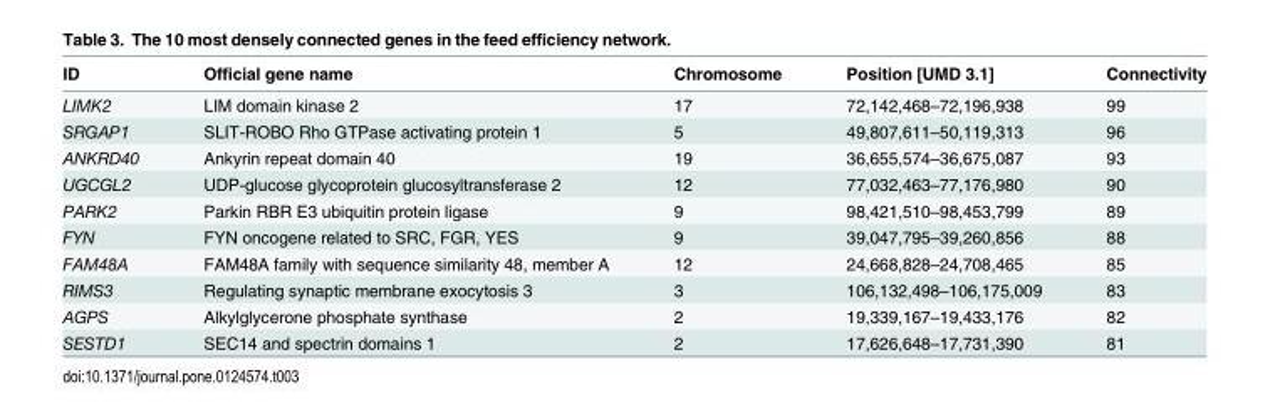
<table><thead><tr><td>ID</td><td>Official gene name</td><td>Chromosome</td><td>Position [UMD 3.1]</td><td>Connectivity</td></tr></thead><tbody><tr><td>LIMK2</td><td>LIM domain kinase 2</td><td>17</td><td>72,142,468–72,196,938</td><td>99</td></tr><tr><td>SRGAP1</td><td>SLIT-ROBO Rho GTPase activating protein 1</td><td>5</td><td>49,807,611–50,119,313</td><td>96</td></tr><tr><td>ANKRD40</td><td>Ankyrin repeat domain 40</td><td>19</td><td>36,655,574–36,675,087</td><td>93</td></tr><tr><td>UGCGL2</td><td>UDP-glucose glycoprotein glucosyltransferase 2</td><td>12</td><td>77,032,463–77,176,980</td><td>90</td></tr><tr><td>PARK2</td><td>Parkin RBR E3 ubiquitin protein ligase</td><td>9</td><td>98,421,510–98,453,799</td><td>89</td></tr><tr><td>FYN</td><td>FYN oncogene related to SRC, FGR, YES</td><td>9</td><td>39,047,795–39,260,856</td><td>88</td></tr><tr><td>FAM48A</td><td>FAM48A family with sequence similarity 48, member A</td><td>12</td><td>24,668,828–24,708,465</td><td>85</td></tr><tr><td>RIMS3</td><td>Regulating synaptic membrane exocytosis 3</td><td>3</td><td>106,132,498–106,175,009</td><td>83</td></tr><tr><td>AGPS</td><td>Alkylglycerone phosphate synthase</td><td>2</td><td>19,339,167–19,433,176</td><td>82</td></tr><tr><td>SESTD1</td><td>SEC14 and spectrin domains 1</td><td>2</td><td>17,626,648–17,731,390</td><td>81</td></tr></tbody></table>